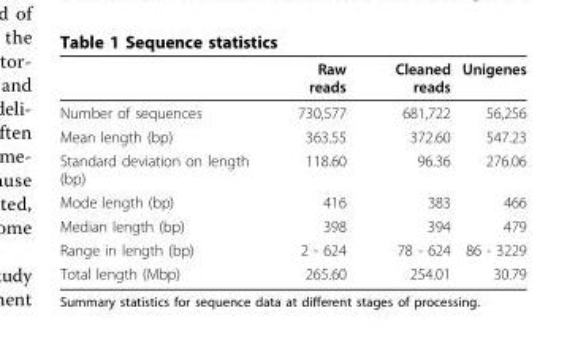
<table><thead><tr><td></td><td>Raw reads</td><td>Cleaned reads</td><td>Unigenes</td></tr></thead><tbody><tr><td>Number of sequences</td><td>730,577</td><td>681,722</td><td>56,256</td></tr><tr><td>Mean length (bp)</td><td>363.55</td><td>372.60</td><td>547.23</td></tr><tr><td>Standard deviation on length (bp)</td><td>118.60</td><td>96.36</td><td>276.06</td></tr><tr><td>Mode length (bp)</td><td>416</td><td>383</td><td>466</td></tr><tr><td>Median length (bp)</td><td>398</td><td>394</td><td>479</td></tr><tr><td>Range in length (bp)</td><td>2 - 624</td><td>78 - 624</td><td>86 - 3229</td></tr><tr><td>Total length (Mbp)</td><td>265.60</td><td>254.01</td><td>30.79</td></tr></tbody></table>